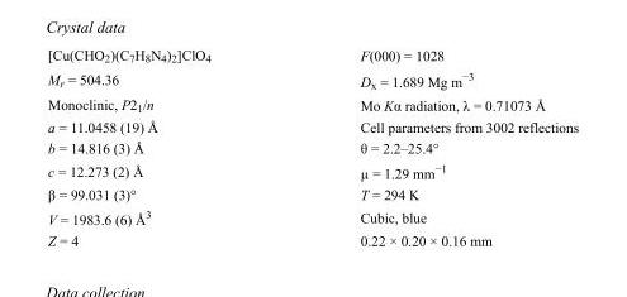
<table><tbody><tr><td>[Cu(CHO<sub>2</sub>)(C<sub>7</sub>H<sub>8</sub>N<sub>4</sub>)<sub>2</sub>]ClO<sub>4</sub></td><td>F(000) = 1028</td></tr><tr><td>M<sub>r</sub> = 504.36</td><td>D<sub>x</sub> = 1.689 Mg m<sup>−3</sup></td></tr><tr><td>Monoclinic, P2<sub>1</sub>/n</td><td>Mo Kα radiation, λ = 0.71073 Å</td></tr><tr><td>a = 11.0458 (19) Å</td><td>Cell parameters from 3002 reflections</td></tr><tr><td>b = 14.816 (3) Å</td><td>θ = 2.2–25.4°</td></tr><tr><td>c = 12.273 (2) Å</td><td>µ = 1.29 mm<sup>−1</sup></td></tr><tr><td>β = 99.031 (3)°</td><td>T = 294 K</td></tr><tr><td>V = 1983.6 (6) Å<sup>3</sup></td><td>Cubic, blue</td></tr><tr><td>Z = 4</td><td>0.22 × 0.20 × 0.16 mm</td></tr></tbody></table>